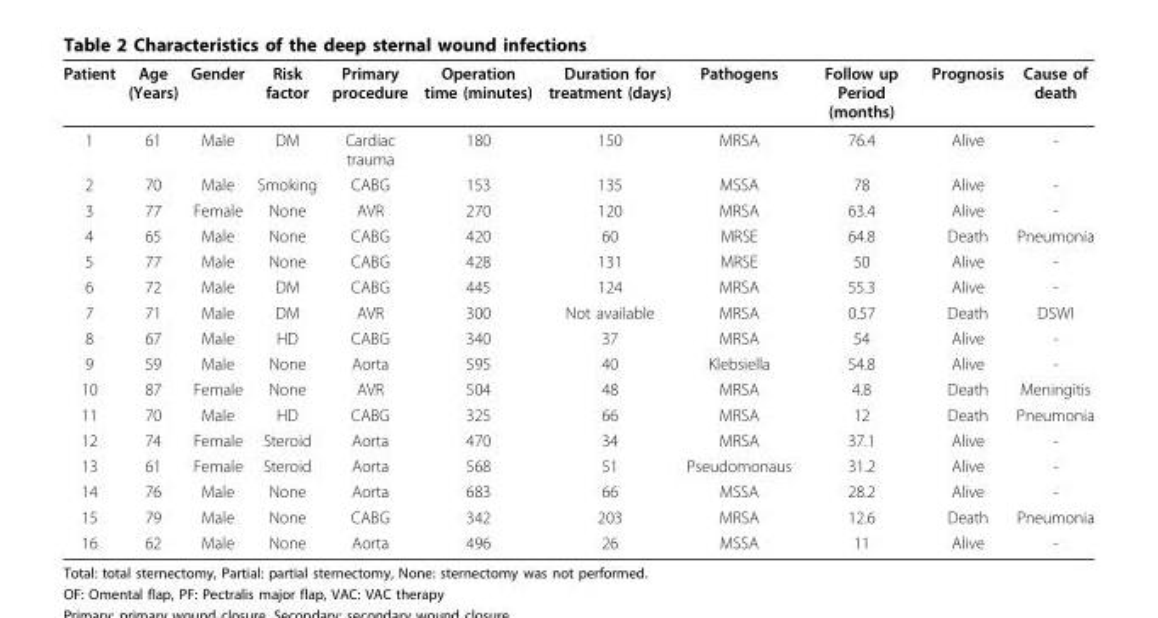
<table><thead><tr><td>Patient</td><td>Age (Years)</td><td>Gender</td><td>Risk factor</td><td>Primary procedure</td><td>Operation time (minutes)</td><td>Duration for treatment (days)</td><td>Pathogens</td><td>Follow up Period (months)</td><td>Prognosis</td><td>Cause of death</td></tr></thead><tbody><tr><td>1</td><td>61</td><td>Male</td><td>DM</td><td>Cardiac trauma</td><td>180</td><td>150</td><td>MRSA</td><td>76.4</td><td>Alive</td><td>-</td></tr><tr><td>2</td><td>70</td><td>Male</td><td>Smoking</td><td>CABG</td><td>153</td><td>135</td><td>MSSA</td><td>78</td><td>Alive</td><td>-</td></tr><tr><td>3</td><td>77</td><td>Female</td><td>None</td><td>AVR</td><td>270</td><td>120</td><td>MRSA</td><td>63.4</td><td>Alive</td><td>-</td></tr><tr><td>4</td><td>65</td><td>Male</td><td>None</td><td>CABG</td><td>420</td><td>60</td><td>MRSE</td><td>64.8</td><td>Death</td><td>Pneumonia</td></tr><tr><td>5</td><td>77</td><td>Male</td><td>None</td><td>CABG</td><td>428</td><td>131</td><td>MRSE</td><td>50</td><td>Alive</td><td>-</td></tr><tr><td>6</td><td>72</td><td>Male</td><td>DM</td><td>CABG</td><td>445</td><td>124</td><td>MRSA</td><td>55.3</td><td>Alive</td><td>-</td></tr><tr><td>7</td><td>71</td><td>Male</td><td>DM</td><td>AVR</td><td>300</td><td>Not available</td><td>MRSA</td><td>0.57</td><td>Death</td><td>DSWI</td></tr><tr><td>8</td><td>67</td><td>Male</td><td>HD</td><td>CABG</td><td>340</td><td>37</td><td>MRSA</td><td>54</td><td>Alive</td><td>-</td></tr><tr><td>9</td><td>59</td><td>Male</td><td>None</td><td>Aorta</td><td>595</td><td>40</td><td>Klebsiella</td><td>54.8</td><td>Alive</td><td>-</td></tr><tr><td>10</td><td>87</td><td>Female</td><td>None</td><td>AVR</td><td>504</td><td>48</td><td>MRSA</td><td>4.8</td><td>Death</td><td>Meningitis</td></tr><tr><td>11</td><td>70</td><td>Male</td><td>HD</td><td>CABG</td><td>325</td><td>66</td><td>MRSA</td><td>12</td><td>Death</td><td>Pneumonia</td></tr><tr><td>12</td><td>74</td><td>Female</td><td>Steroid</td><td>Aorta</td><td>470</td><td>34</td><td>MRSA</td><td>37.1</td><td>Alive</td><td>-</td></tr><tr><td>13</td><td>61</td><td>Female</td><td>Steroid</td><td>Aorta</td><td>568</td><td>51</td><td>Pseudomonaus</td><td>31.2</td><td>Alive</td><td>-</td></tr><tr><td>14</td><td>76</td><td>Male</td><td>None</td><td>Aorta</td><td>683</td><td>66</td><td>MSSA</td><td>28.2</td><td>Alive</td><td>-</td></tr><tr><td>15</td><td>79</td><td>Male</td><td>None</td><td>CABG</td><td>342</td><td>203</td><td>MRSA</td><td>12.6</td><td>Death</td><td>Pneumonia</td></tr><tr><td>16</td><td>62</td><td>Male</td><td>None</td><td>Aorta</td><td>496</td><td>26</td><td>MSSA</td><td>11</td><td>Alive</td><td>-</td></tr></tbody></table>